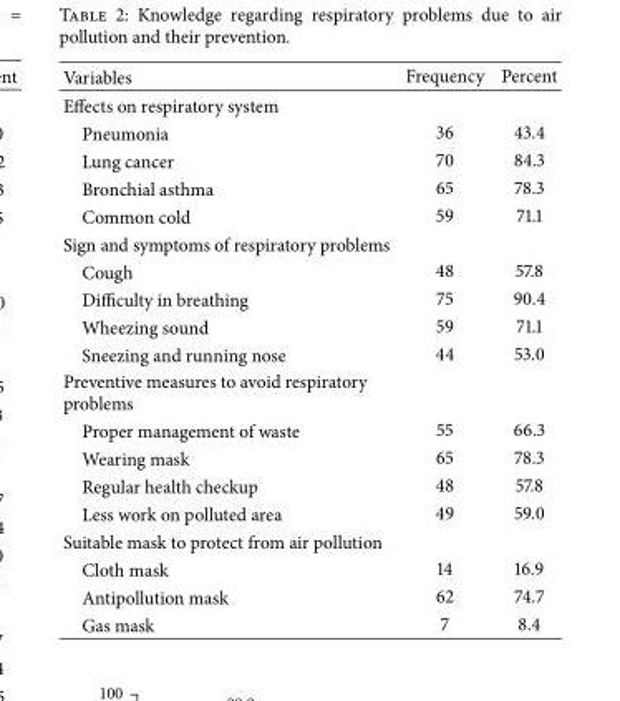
<table><thead><tr><td>Variables</td><td>Frequency</td><td>Percent</td></tr></thead><tbody><tr><td colspan="3">Effects on respiratory system</td></tr><tr><td>Pneumonia</td><td>36</td><td>43.4</td></tr><tr><td>Lung cancer</td><td>70</td><td>84.3</td></tr><tr><td>Bronchial asthma</td><td>65</td><td>78.3</td></tr><tr><td>Common cold</td><td>59</td><td>71.1</td></tr><tr><td colspan="3">Sign and symptoms of respiratory problems</td></tr><tr><td>Cough</td><td>48</td><td>57.8</td></tr><tr><td>Difficulty in breathing</td><td>75</td><td>90.4</td></tr><tr><td>Wheezing sound</td><td>59</td><td>71.1</td></tr><tr><td>Sneezing and running nose</td><td>44</td><td>53.0</td></tr><tr><td colspan="3">Preventive measures to avoid respiratory problems</td></tr><tr><td>Proper management of waste</td><td>55</td><td>66.3</td></tr><tr><td>Wearing mask</td><td>65</td><td>78.3</td></tr><tr><td>Regular health checkup</td><td>48</td><td>57.8</td></tr><tr><td>Less work on polluted area</td><td>49</td><td>59.0</td></tr><tr><td colspan="3">Suitable mask to protect from air pollution</td></tr><tr><td>Cloth mask</td><td>14</td><td>16.9</td></tr><tr><td>Antipollution mask</td><td>62</td><td>74.7</td></tr><tr><td>Gas mask</td><td>7</td><td>8.4</td></tr></tbody></table>